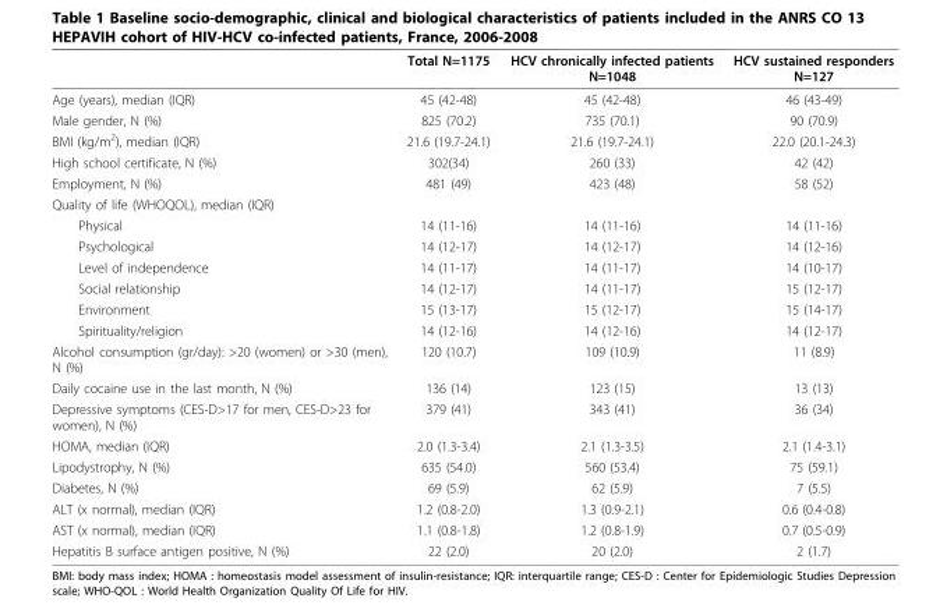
<table><thead><tr><td></td><td>Total N=1175</td><td>HCV chronically infected patients N=1048</td><td>HCV sustained responders N=127</td></tr></thead><tbody><tr><td>Age (years), median (IQR)</td><td>45 (42-48)</td><td>45 (42-48)</td><td>46 (43-49)</td></tr><tr><td>Male gender, N (%)</td><td>825 (70.2)</td><td>735 (70.1)</td><td>90 (70.9)</td></tr><tr><td>BMI (kg/m<sup>2</sup>), median (IQR)</td><td>21.6 (19.7-24.1)</td><td>21.6 (19.7-24.1)</td><td>22.0 (20.1-24.3)</td></tr><tr><td>High school certificate, N (%)</td><td>302(34)</td><td>260 (33)</td><td>42 (42)</td></tr><tr><td>Employment, N (%)</td><td>481 (49)</td><td>423 (48)</td><td>58 (52)</td></tr><tr><td colspan="4">Quality of life (WHOQOL), median (IQR)</td></tr><tr><td>Physical</td><td>14 (11-16)</td><td>14 (11-16)</td><td>14 (11-16)</td></tr><tr><td>Psychological</td><td>14 (12-17)</td><td>14 (12-17)</td><td>14 (12-16)</td></tr><tr><td>Level of independence</td><td>14 (11-17)</td><td>14 (11-17)</td><td>14 (10-17)</td></tr><tr><td>Social relationship</td><td>14 (12-17)</td><td>14 (11-17)</td><td>15 (12-17)</td></tr><tr><td>Environment</td><td>15 (13-17)</td><td>15 (12-17)</td><td>15 (14-17)</td></tr><tr><td>Spirituality/religion</td><td>14 (12-16)</td><td>14 (12-16)</td><td>14 (12-17)</td></tr><tr><td>Alcohol consumption (gr/day): &gt;20 (women) or &gt;30 (men), N (%)</td><td>120 (10.7)</td><td>109 (10.9)</td><td>11 (8.9)</td></tr><tr><td>Daily cocaine use in the last month, N (%)</td><td>136 (14)</td><td>123 (15)</td><td>13 (13)</td></tr><tr><td>Depressive symptoms (CES-D&gt;17 for men, CES-D&gt;23 for women), N (%)</td><td>379 (41)</td><td>343 (41)</td><td>36 (34)</td></tr><tr><td>HOMA, median (IQR)</td><td>2.0 (1.3-3.4)</td><td>2.1 (1.3-3.5)</td><td>2.1 (1.4-3.1)</td></tr><tr><td>Lipodystrophy, N (%)</td><td>635 (54.0)</td><td>560 (53.4)</td><td>75 (59.1)</td></tr><tr><td>Diabetes, N (%)</td><td>69 (5.9)</td><td>62 (5.9)</td><td>7 (5.5)</td></tr><tr><td>ALT (x normal), median (IQR)</td><td>1.2 (0.8-2.0)</td><td>1.3 (0.9-2.1)</td><td>0.6 (0.4-0.8)</td></tr><tr><td>AST (x normal), median (IQR)</td><td>1.1 (0.8-1.8)</td><td>1.2 (0.8-1.9)</td><td>0.7 (0.5-0.9)</td></tr><tr><td>Hepatitis B surface antigen positive, N (%)</td><td>22 (2.0)</td><td>20 (2.0)</td><td>2 (1.7)</td></tr></tbody></table>